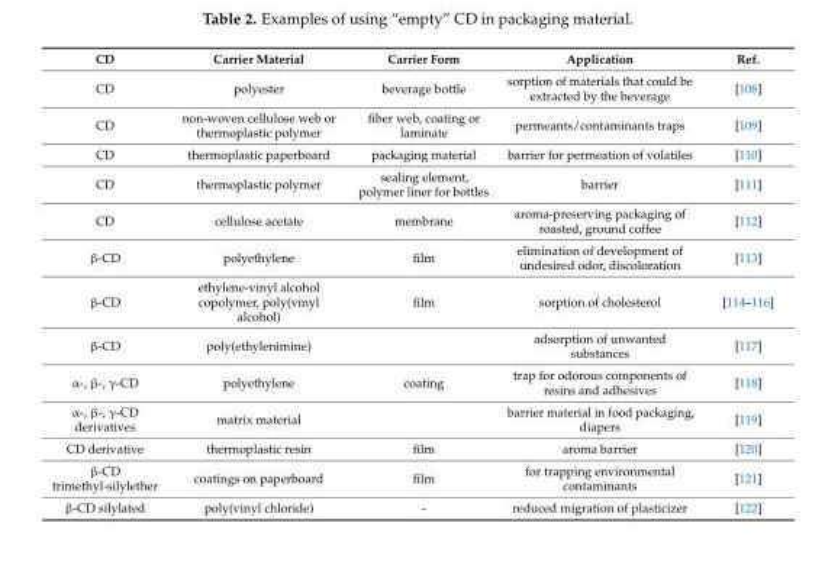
<table><thead><tr><td>CD</td><td>Carrier Material</td><td>Carrier Form</td><td>Application</td><td>Ref.</td></tr></thead><tbody><tr><td>CD</td><td>polyester</td><td>beverage bottle</td><td>sorption of materials that could be extracted by the beverage</td><td>[108]</td></tr><tr><td>CD</td><td>non-woven cellulose web or thermoplastic polymer</td><td>fiber web, coating or laminate</td><td>permeants/contaminants traps</td><td>[109]</td></tr><tr><td>CD</td><td>thermoplastic paperboard</td><td>packaging material</td><td>barrier for permeation of volatiles</td><td>[110]</td></tr><tr><td>CD</td><td>thermoplastic polymer</td><td>sealing element, polymer liner for bottles</td><td>barrier</td><td>[111]</td></tr><tr><td>CD</td><td>cellulose acetate</td><td>membrane</td><td>aroma-preserving packaging of roasted, ground coffee</td><td>[112]</td></tr><tr><td>β-CD</td><td>polyethylene</td><td>film</td><td>elimination of development of undesired odor, discoloration</td><td>[113]</td></tr><tr><td>β-CD</td><td>ethylene-vinyl alcohol copolymer, poly(vinyl alcohol)</td><td>film</td><td>sorption of cholesterol</td><td>[114–116]</td></tr><tr><td>β-CD</td><td>poly(ethylenimine)</td><td></td><td>adsorption of unwanted substances</td><td>[117]</td></tr><tr><td>α-, β-, γ-CD</td><td>polyethylene</td><td>coating</td><td>trap for odorous components of resins and adhesives</td><td>[118]</td></tr><tr><td>α-, β-, γ-CD derivatives</td><td>matrix material</td><td></td><td>barrier material in food packaging, diapers</td><td>[119]</td></tr><tr><td>CD derivative</td><td>thermoplastic resin</td><td>film</td><td>aroma barrier</td><td>[120]</td></tr><tr><td>β-CD trimethyl-silylether</td><td>coatings on paperboard</td><td>film</td><td>for trapping environmental contaminants</td><td>[121]</td></tr><tr><td>β-CD silylated</td><td>poly(vinyl chloride)</td><td>-</td><td>reduced migration of plasticizer</td><td>[122]</td></tr></tbody></table>